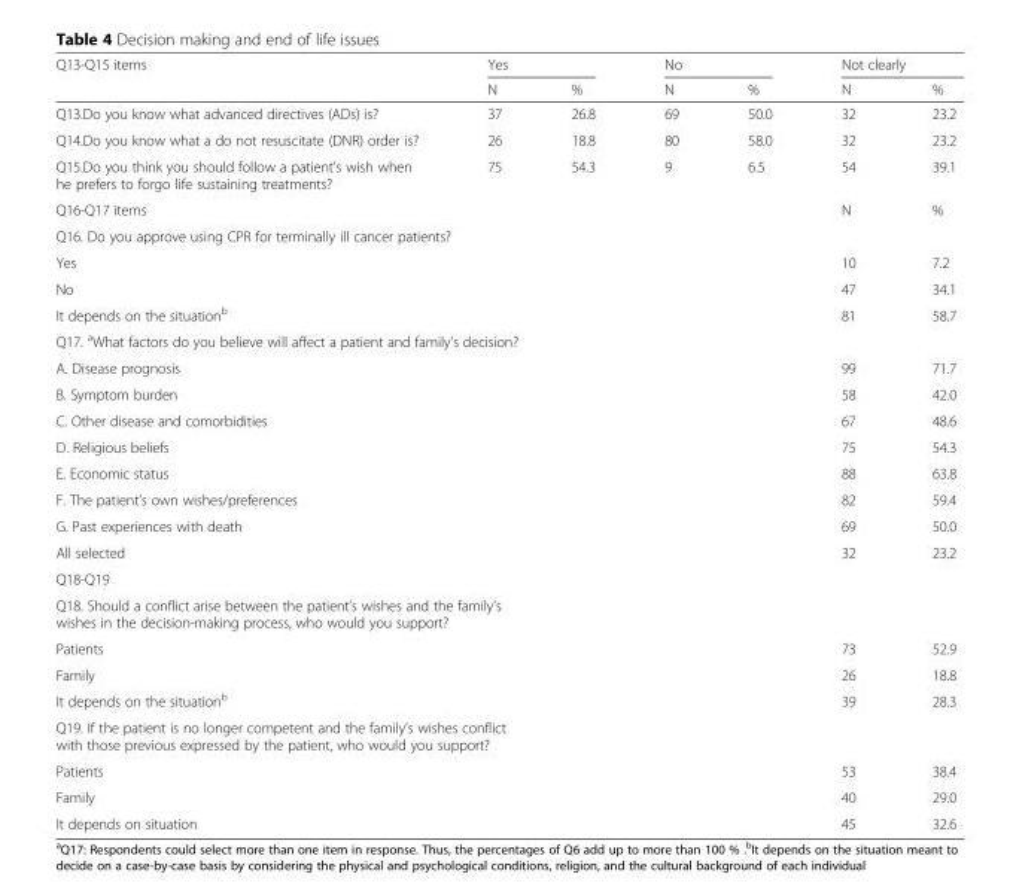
<table><thead><tr><td rowspan="2">Q13-Q15 items</td><td colspan="2">Yes</td><td colspan="2">No</td><td colspan="2">Not clearly</td></tr><tr><td>N</td><td>%</td><td>N</td><td>%</td><td>N</td><td>%</td></tr></thead><tbody><tr><td>Q13.Do you know what advanced directives (ADs) is?</td><td>37</td><td>26.8</td><td>69</td><td>50.0</td><td>32</td><td>23.2</td></tr><tr><td>Q14.Do you know what a do not resuscitate (DNR) order is?</td><td>26</td><td>18.8</td><td>80</td><td>58.0</td><td>32</td><td>23.2</td></tr><tr><td>Q15.Do you think you should follow a patient’s wish when he prefers to forgo life sustaining treatments?</td><td>75</td><td>54.3</td><td>9</td><td>6.5</td><td>54</td><td>39.1</td></tr><tr><td>Q16-Q17 items</td><td></td><td></td><td></td><td></td><td>N</td><td>%</td></tr><tr><td colspan="7">Q16. Do you approve using CPR for terminally ill cancer patients?</td></tr><tr><td>Yes</td><td></td><td></td><td></td><td></td><td>10</td><td>7.2</td></tr><tr><td>No</td><td></td><td></td><td></td><td></td><td>47</td><td>34.1</td></tr><tr><td>It depends on the situation<sup>b</sup></td><td></td><td></td><td></td><td></td><td>81</td><td>58.7</td></tr><tr><td colspan="7">Q17. <sup>a</sup>What factors do you believe will affect a patient and family’s decision?</td></tr><tr><td>A. Disease prognosis</td><td></td><td></td><td></td><td></td><td>99</td><td>71.7</td></tr><tr><td>B. Symptom burden</td><td></td><td></td><td></td><td></td><td>58</td><td>42.0</td></tr><tr><td>C. Other disease and comorbidities</td><td></td><td></td><td></td><td></td><td>67</td><td>48.6</td></tr><tr><td>D. Religious beliefs</td><td></td><td></td><td></td><td></td><td>75</td><td>54.3</td></tr><tr><td>E. Economic status</td><td></td><td></td><td></td><td></td><td>88</td><td>63.8</td></tr><tr><td>F. The patient’s own wishes/preferences</td><td></td><td></td><td></td><td></td><td>82</td><td>59.4</td></tr><tr><td>G. Past experiences with death</td><td></td><td></td><td></td><td></td><td>69</td><td>50.0</td></tr><tr><td>All selected</td><td></td><td></td><td></td><td></td><td>32</td><td>23.2</td></tr><tr><td colspan="7">Q18-Q19</td></tr><tr><td colspan="7">Q18. Should a conflict arise between the patient’s wishes and the family’s wishes in the decision-making process, who would you support?</td></tr><tr><td>Patients</td><td></td><td></td><td></td><td></td><td>73</td><td>52.9</td></tr><tr><td>Family</td><td></td><td></td><td></td><td></td><td>26</td><td>18.8</td></tr><tr><td>It depends on the situation<sup>b</sup></td><td></td><td></td><td></td><td></td><td>39</td><td>28.3</td></tr><tr><td colspan="7">Q19. If the patient is no longer competent and the family’s wishes conflict with those previous expressed by the patient, who would you support?</td></tr><tr><td>Patients</td><td></td><td></td><td></td><td></td><td>53</td><td>38.4</td></tr><tr><td>Family</td><td></td><td></td><td></td><td></td><td>40</td><td>29.0</td></tr><tr><td>It depends on situation</td><td></td><td></td><td></td><td></td><td>45</td><td>32.6</td></tr></tbody></table>